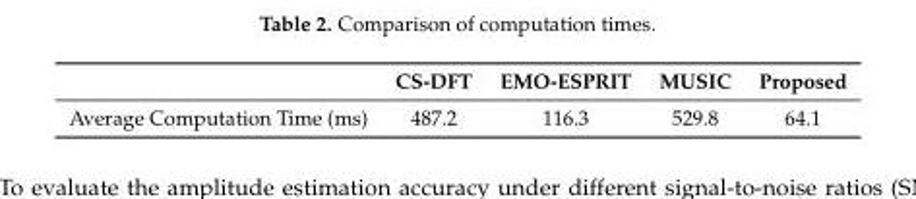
<table><thead><tr><td></td><td>CS-DFT</td><td>EMO-ESPRIT</td><td>MUSIC</td><td>Proposed</td></tr></thead><tbody><tr><td>Average Computation Time (ms)</td><td>487.2</td><td>116.3</td><td>529.8</td><td>64.1</td></tr></tbody></table>